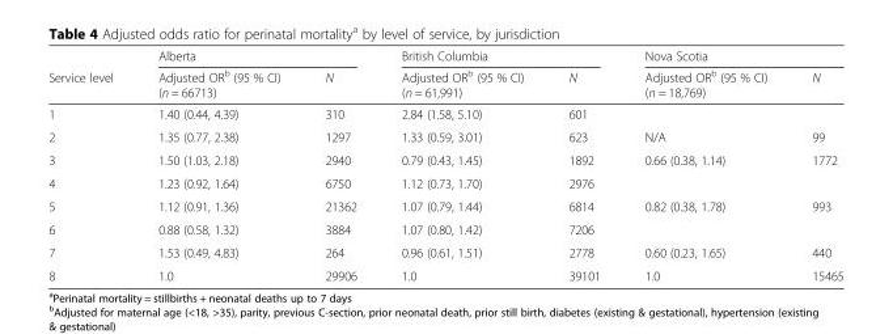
<table><thead><tr><td rowspan="2">Service level</td><td colspan="2">Alberta</td><td colspan="2">British Columbia</td><td colspan="2">Nova Scotia</td></tr><tr><td>Adjusted OR<sup>b</sup> (95 % CI) (n = 66713)</td><td>N</td><td>Adjusted OR<sup>b</sup> (95 % CI) (n = 61,991)</td><td>N</td><td>Adjusted OR<sup>b</sup> (95 % CI) (n = 18,769)</td><td>N</td></tr></thead><tbody><tr><td>1</td><td>1.40 (0.44, 4.39)</td><td>310</td><td>2.84 (1.58, 5.10)</td><td>601</td><td colspan="2"></td></tr><tr><td>2</td><td>1.35 (0.77, 2.38)</td><td>1297</td><td>1.33 (0.59, 3.01)</td><td>623</td><td>N/A</td><td>99</td></tr><tr><td>3</td><td>1.50 (1.03, 2.18)</td><td>2940</td><td>0.79 (0.43, 1.45)</td><td>1892</td><td>0.66 (0.38, 1.14)</td><td>1772</td></tr><tr><td>4</td><td>1.23 (0.92, 1.64)</td><td>6750</td><td>1.12 (0.73, 1.70)</td><td>2976</td><td colspan="2"></td></tr><tr><td>5</td><td>1.12 (0.91, 1.36)</td><td>21362</td><td>1.07 (0.79, 1.44)</td><td>6814</td><td>0.82 (0.38, 1.78)</td><td>993</td></tr><tr><td>6</td><td>0.88 (0.58, 1.32)</td><td>3884</td><td>1.07 (0.80, 1.42)</td><td>7206</td><td colspan="2"></td></tr><tr><td>7</td><td>1.53 (0.49, 4.83)</td><td>264</td><td>0.96 (0.61, 1.51)</td><td>2778</td><td>0.60 (0.23, 1.65)</td><td>440</td></tr><tr><td>8</td><td>1.0</td><td>29906</td><td>1.0</td><td>39101</td><td>1.0</td><td>15465</td></tr></tbody></table>